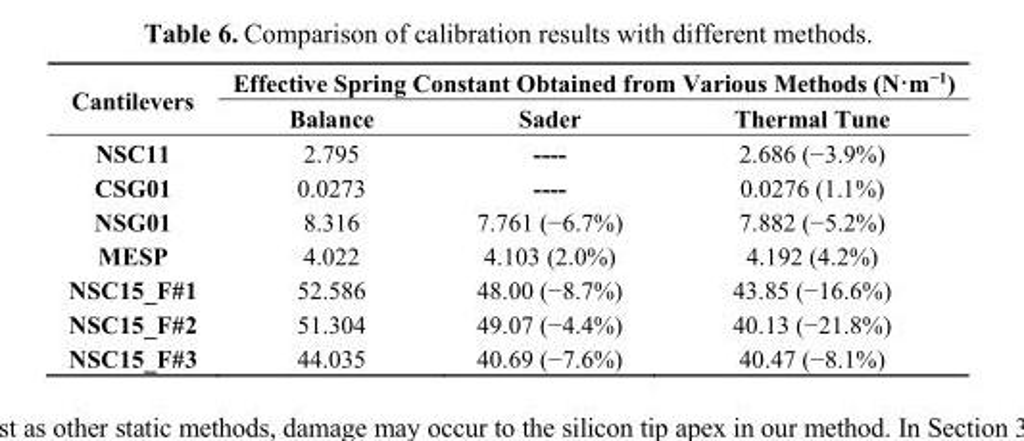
<table><thead><tr><td rowspan="2">Cantilevers</td><td colspan="3">Effective Spring Constant Obtained from Various Methods (N·m<sup>−1</sup>)</td></tr><tr><td>Balance</td><td>Sader</td><td>Thermal Tune</td></tr></thead><tbody><tr><td>NSC11</td><td>2.795</td><td>----</td><td>2.686 (−3.9%)</td></tr><tr><td>CSG01</td><td>0.0273</td><td>----</td><td>0.0276 (1.1%)</td></tr><tr><td>NSG01</td><td>8.316</td><td>7.761 (−6.7%)</td><td>7.882 (−5.2%)</td></tr><tr><td>MESP</td><td>4.022</td><td>4.103 (2.0%)</td><td>4.192 (4.2%)</td></tr><tr><td>NSC15_F#1</td><td>52.586</td><td>48.00 (−8.7%)</td><td>43.85 (−16.6%)</td></tr><tr><td>NSC15_F#2</td><td>51.304</td><td>49.07 (−4.4%)</td><td>40.13 (−21.8%)</td></tr><tr><td>NSC15_F#3</td><td>44.035</td><td>40.69 (−7.6%)</td><td>40.47 (−8.1%)</td></tr></tbody></table>